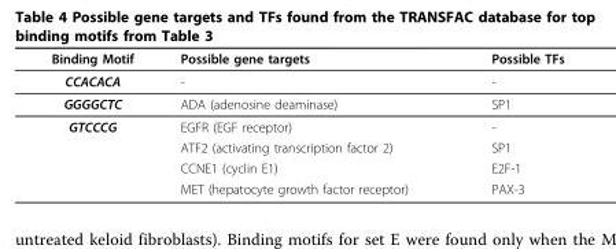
<table><thead><tr><td>Binding Motif</td><td>Possible gene targets</td><td>Possible TFs</td></tr></thead><tbody><tr><td>CCACACA</td><td>-</td><td>-</td></tr><tr><td>GGGGCTC</td><td>ADA (adenosine deaminase)</td><td>SP1</td></tr><tr><td rowspan="4">GTCCCG</td><td>EGFR (EGF receptor)</td><td>-</td></tr><tr><td>ATF2 (activating transcription factor 2)</td><td>SP1</td></tr><tr><td>CCNE1 (cyclin E1)</td><td>E2F-1</td></tr><tr><td>MET (hepatocyte growth factor receptor)</td><td>PAX-3</td></tr></tbody></table>